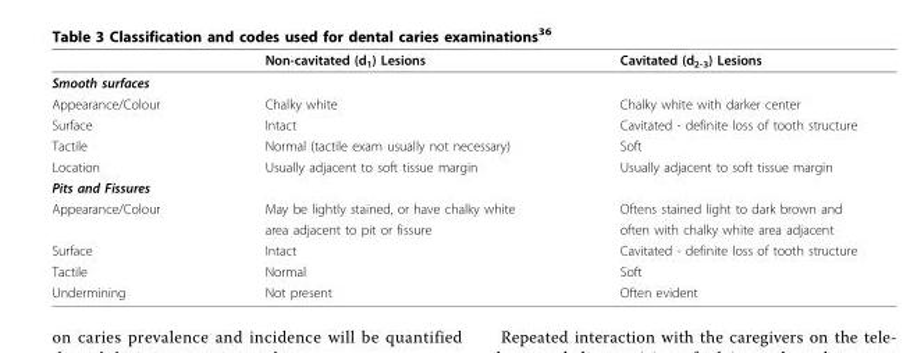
<table><thead><tr><td></td><td>Non-cavitated (d<sub>1</sub>) Lesions</td><td>Cavitated (d<sub>2-3</sub>) Lesions</td></tr></thead><tbody><tr><td colspan="3">Smooth surfaces</td></tr><tr><td>Appearance/Colour</td><td>Chalky white</td><td>Chalky white with darker center</td></tr><tr><td>Surface</td><td>Intact</td><td>Cavitated - definite loss of tooth structure</td></tr><tr><td>Tactile</td><td>Normal (tactile exam usually not necessary)</td><td>Soft</td></tr><tr><td>Location</td><td>Usually adjacent to soft tissue margin</td><td>Usually adjacent to soft tissue margin</td></tr><tr><td colspan="3">Pits and Fissures</td></tr><tr><td rowspan="2">Appearance/Colour</td><td>May be lightly stained, or have chalky white</td><td>Oftens stained light to dark brown and</td></tr><tr><td>area adjacent to pit or fissure</td><td>often with chalky white area adjacent</td></tr><tr><td>Surface</td><td>Intact</td><td>Cavitated - definite loss of tooth structure</td></tr><tr><td>Tactile</td><td>Normal</td><td>Soft</td></tr><tr><td>Undermining</td><td>Not present</td><td>Often evident</td></tr></tbody></table>